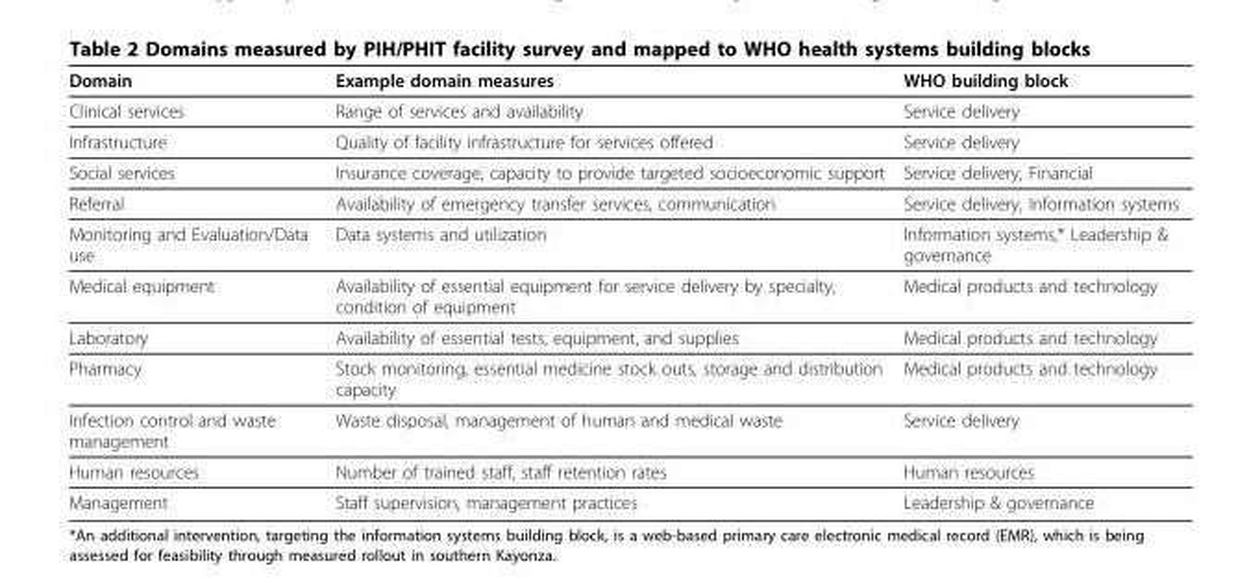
<table><thead><tr><td>Domain</td><td>Example domain measures</td><td>WHO building block</td></tr></thead><tbody><tr><td>Clinical services</td><td>Range of services and availability</td><td>Service delivery</td></tr><tr><td>Infrastructure</td><td>Quality of facility infrastructure for services offered</td><td>Service delivery</td></tr><tr><td>Social services</td><td>Insurance coverage, capacity to provide targeted socioeconomic support</td><td>Service delivery, Financial</td></tr><tr><td>Referral</td><td>Availability of emergency transfer services, communication</td><td>Service delivery, Information systems</td></tr><tr><td>Monitoring and Evaluation/Data use</td><td>Data systems and utilization</td><td>Information systems,* Leadership &amp; governance</td></tr><tr><td>Medical equipment</td><td>Availability of essential equipment for service delivery by specialty, condition of equipment</td><td>Medical products and technology</td></tr><tr><td>Laboratory</td><td>Availability of essential tests, equipment, and supplies</td><td>Medical products and technology</td></tr><tr><td>Pharmacy</td><td>Stock monitoring, essential medicine stock outs, storage and distribution capacity</td><td>Medical products and technology</td></tr><tr><td>Infection control and waste management</td><td>Waste disposal, management of human and medical waste</td><td>Service delivery</td></tr><tr><td>Human resources</td><td>Number of trained staff, staff retention rates</td><td>Human resources</td></tr><tr><td>Management</td><td>Staff supervision, management practices</td><td>Leadership &amp; governance</td></tr></tbody></table>